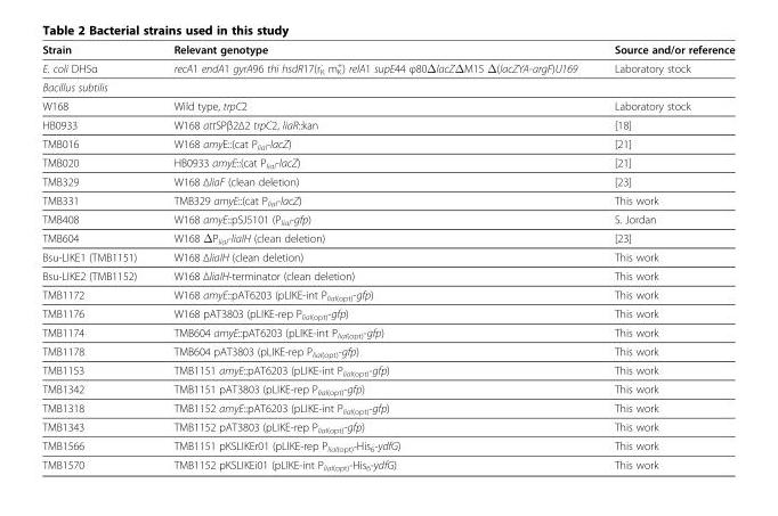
<table><thead><tr><td>Strain</td><td>Relevant genotype</td><td>Source and/or reference</td></tr></thead><tbody><tr><td>E. coli DH5α</td><td>recA1 endA1 gyrA96 thi hsdR17(r<sub>K</sub> <sup>-</sup> m<sub>K</sub> <sup>+</sup>) relA1 supE44 φ80ΔlacZΔM15 Δ(lacZYA-argF)U169</td><td>Laboratory stock</td></tr><tr><td colspan="3">Bacillus subtilis</td></tr><tr><td>W168</td><td>Wild type, trpC2</td><td>Laboratory stock</td></tr><tr><td>HB0933</td><td>W168 attSPβ2Δ2 trpC2, liaR::kan</td><td>[18]</td></tr><tr><td>TMB016</td><td>W168 amyE::(cat P<sub>liaI</sub>-lacZ)</td><td>[21]</td></tr><tr><td>TMB020</td><td>HB0933 amyE::(cat P<sub>liaI</sub>-lacZ)</td><td>[21]</td></tr><tr><td>TMB329</td><td>W168 ΔliaF (clean deletion)</td><td>[23]</td></tr><tr><td>TMB331</td><td>TMB329 amyE::(cat P<sub>liaI</sub>-lacZ)</td><td>This work</td></tr><tr><td>TMB408</td><td>W168 amyE::pSJ5101 (P<sub>liaI</sub>-gfp)</td><td>S. Jordan</td></tr><tr><td>TMB604</td><td>W168 ΔP<sub>liaI</sub>-liaIH (clean deletion)</td><td>[23]</td></tr><tr><td>Bsu-LIKE1 (TMB1151)</td><td>W168 ΔliaIH (clean deletion)</td><td>This work</td></tr><tr><td>Bsu-LIKE2 (TMB1152)</td><td>W168 ΔliaIH-terminator (clean deletion)</td><td>This work</td></tr><tr><td>TMB1172</td><td>W168 amyE::pAT6203 (pLIKE-int P<sub>liaI(opt)</sub>-gfp)</td><td>This work</td></tr><tr><td>TMB1176</td><td>W168 pAT3803 (pLIKE-rep P<sub>liaI(opt)</sub>-gfp)</td><td>This work</td></tr><tr><td>TMB1174</td><td>TMB604 amyE::pAT6203 (pLIKE-int P<sub>liaI(opt)</sub>-gfp)</td><td>This work</td></tr><tr><td>TMB1178</td><td>TMB604 pAT3803 (pLIKE-rep P<sub>liaI(opt)</sub>-gfp)</td><td>This work</td></tr><tr><td>TMB1153</td><td>TMB1151 amyE::pAT6203 (pLIKE-int P<sub>liaI(opt)</sub>-gfp)</td><td>This work</td></tr><tr><td>TMB1342</td><td>TMB1151 pAT3803 (pLIKE-rep P<sub>liaI(opt)</sub>-gfp)</td><td>This work</td></tr><tr><td>TMB1318</td><td>TMB1152 amyE::pAT6203 (pLIKE-int P<sub>liaI(opt)</sub>-gfp)</td><td>This work</td></tr><tr><td>TMB1343</td><td>TMB1152 pAT3803 (pLIKE-rep P<sub>liaI(opt)</sub>-gfp)</td><td>This work</td></tr><tr><td>TMB1566</td><td>TMB1151 pKSLIKEr01 (pLIKE-rep P<sub>liaI(opt)</sub>-His<sub>6</sub>-ydfG)</td><td>This work</td></tr><tr><td>TMB1570</td><td>TMB1152 pKSLIKEi01 (pLIKE-int P<sub>liaI(opt)</sub>-His<sub>6</sub>-ydfG)</td><td>This work</td></tr></tbody></table>